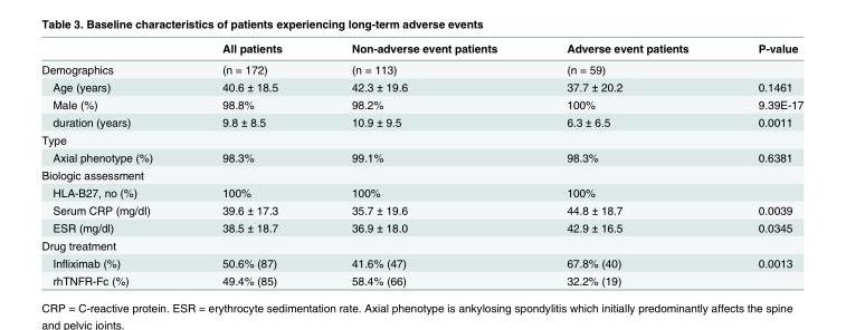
<table><thead><tr><td></td><td>All patients</td><td>Non-adverse event patients</td><td>Adverse event patients</td><td>P-value</td></tr></thead><tbody><tr><td>Demographics</td><td>(n = 172)</td><td>(n = 113)</td><td>(n = 59)</td><td></td></tr><tr><td>Age (years)</td><td>40.6 ± 18.5</td><td>42.3 ± 19.6</td><td>37.7 ± 20.2</td><td>0.1461</td></tr><tr><td>Male (%)</td><td>98.8%</td><td>98.2%</td><td>100%</td><td>9.39E-17</td></tr><tr><td>duration (years)</td><td>9.8 ± 8.5</td><td>10.9 ± 9.5</td><td>6.3 ± 6.5</td><td>0.0011</td></tr><tr><td colspan="5">Type</td></tr><tr><td>Axial phenotype (%)</td><td>98.3%</td><td>99.1%</td><td>98.3%</td><td>0.6381</td></tr><tr><td colspan="5">Biologic assessment</td></tr><tr><td>HLA-B27, no (%)</td><td>100%</td><td>100%</td><td>100%</td><td></td></tr><tr><td>Serum CRP (mg/dl)</td><td>39.6 ± 17.3</td><td>35.7 ± 19.6</td><td>44.8 ± 18.7</td><td>0.0039</td></tr><tr><td>ESR (mg/dl)</td><td>38.5 ± 18.7</td><td>36.9 ± 18.0</td><td>42.9 ± 16.5</td><td>0.0345</td></tr><tr><td colspan="5">Drug treatment</td></tr><tr><td>Infliximab (%)</td><td>50.6% (87)</td><td>41.6% (47)</td><td>67.8% (40)</td><td>0.0013</td></tr><tr><td>rhTNFR-Fc (%)</td><td>49.4% (85)</td><td>58.4% (66)</td><td>32.2% (19)</td><td></td></tr></tbody></table>